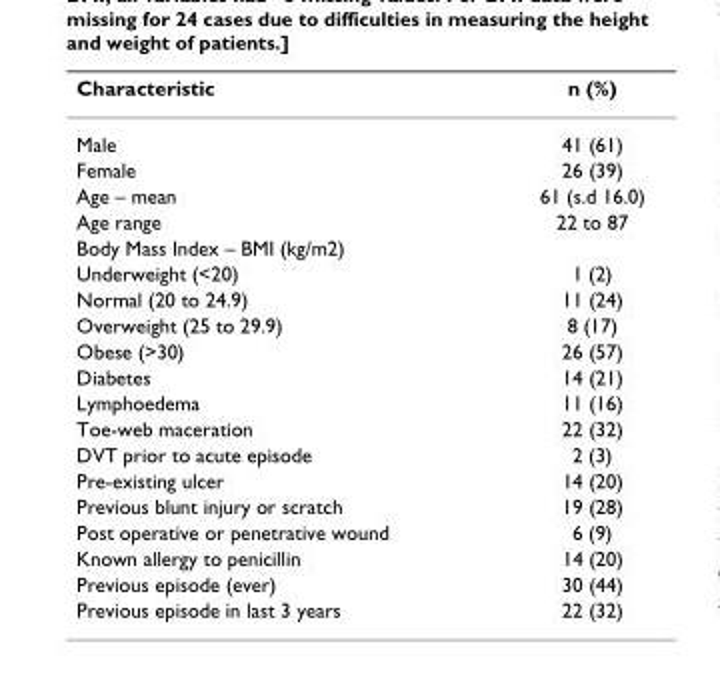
<table><thead><tr><td>Characteristic</td><td>n (%)</td></tr></thead><tbody><tr><td>Male</td><td>41 (61)</td></tr><tr><td>Female</td><td>26 (39)</td></tr><tr><td>Age – mean</td><td>61 (s.d 16.0)</td></tr><tr><td>Age range</td><td>22 to 87</td></tr><tr><td colspan="2">Body Mass Index – BMI (kg/m2)</td></tr><tr><td>Underweight (&lt;20)</td><td>1 (2)</td></tr><tr><td>Normal (20 to 24.9)</td><td>11 (24)</td></tr><tr><td>Overweight (25 to 29.9)</td><td>8 (17)</td></tr><tr><td>Obese (&gt;30)</td><td>26 (57)</td></tr><tr><td>Diabetes</td><td>14 (21)</td></tr><tr><td>Lymphoedema</td><td>11 (16)</td></tr><tr><td>Toe-web maceration</td><td>22 (32)</td></tr><tr><td>DVT prior to acute episode</td><td>2 (3)</td></tr><tr><td>Pre-existing ulcer</td><td>14 (20)</td></tr><tr><td>Previous blunt injury or scratch</td><td>19 (28)</td></tr><tr><td>Post operative or penetrative wound</td><td>6 (9)</td></tr><tr><td>Known allergy to penicillin</td><td>14 (20)</td></tr><tr><td>Previous episode (ever)</td><td>30 (44)</td></tr><tr><td>Previous episode in last 3 years</td><td>22 (32)</td></tr></tbody></table>